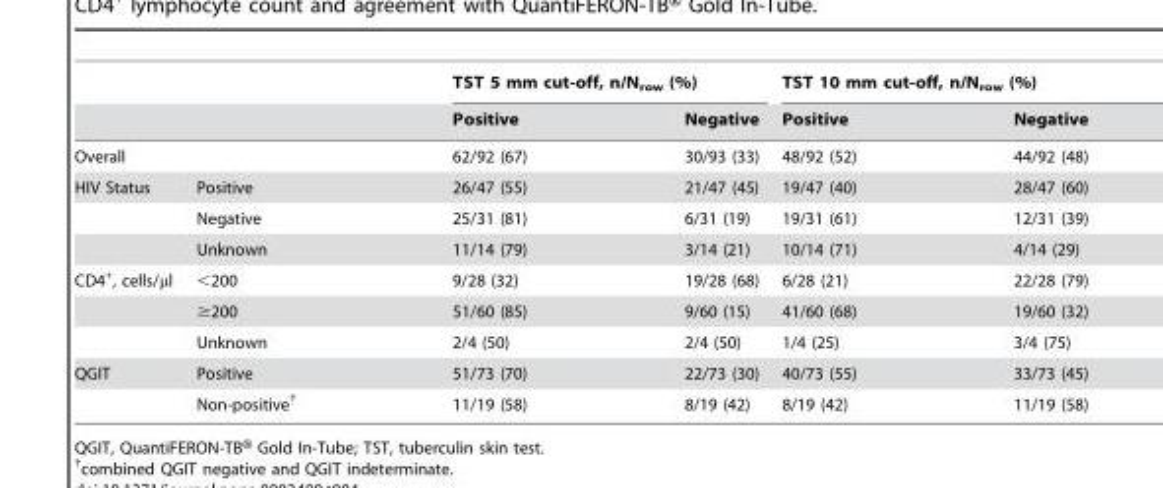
<table><thead><tr><td rowspan="2"></td><td rowspan="2"></td><td colspan="2">TST 5 mm cut-off, n/N<sub>row</sub> (%)</td><td colspan="2">TST 10 mm cut-off, n/N<sub>row</sub> (%)</td></tr><tr><td>Positive</td><td>Negative</td><td>Positive</td><td>Negative</td></tr></thead><tbody><tr><td>Overall</td><td></td><td>62/92 (67)</td><td>30/93 (33)</td><td>48/92 (52)</td><td>44/92 (48)</td></tr><tr><td rowspan="3">HIV Status</td><td>Positive</td><td>26/47 (55)</td><td>21/47 (45)</td><td>19/47 (40)</td><td>28/47 (60)</td></tr><tr><td>Negative</td><td>25/31 (81)</td><td>6/31 (19)</td><td>19/31 (61)</td><td>12/31 (39)</td></tr><tr><td>Unknown</td><td>11/14 (79)</td><td>3/14 (21)</td><td>10/14 (71)</td><td>4/14 (29)</td></tr><tr><td rowspan="3">CD4<sup>+</sup>, cells/μl</td><td>&lt;200</td><td>9/28 (32)</td><td>19/28 (68)</td><td>6/28 (21)</td><td>22/28 (79)</td></tr><tr><td>≥200</td><td>51/60 (85)</td><td>9/60 (15)</td><td>41/60 (68)</td><td>19/60 (32)</td></tr><tr><td>Unknown</td><td>2/4 (50)</td><td>2/4 (50)</td><td>1/4 (25)</td><td>3/4 (75)</td></tr><tr><td rowspan="2">QGIT</td><td>Positive</td><td>51/73 (70)</td><td>22/73 (30)</td><td>40/73 (55)</td><td>33/73 (45)</td></tr><tr><td>Non-positive†</td><td>11/19 (58)</td><td>8/19 (42)</td><td>8/19 (42)</td><td>11/19 (58)</td></tr></tbody></table>